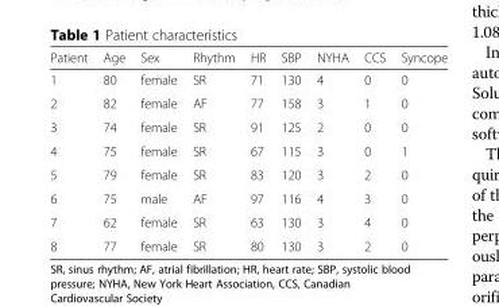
<table><thead><tr><td>Patient</td><td>Age</td><td>Sex</td><td>Rhythm</td><td>HR</td><td>SBP</td><td>NYHA</td><td>CCS</td><td>Syncope</td></tr></thead><tbody><tr><td>1</td><td>80</td><td>female</td><td>SR</td><td>71</td><td>130</td><td>4</td><td>0</td><td>0</td></tr><tr><td>2</td><td>82</td><td>female</td><td>AF</td><td>77</td><td>158</td><td>3</td><td>1</td><td>0</td></tr><tr><td>3</td><td>74</td><td>female</td><td>SR</td><td>91</td><td>125</td><td>2</td><td>0</td><td>0</td></tr><tr><td>4</td><td>75</td><td>female</td><td>SR</td><td>67</td><td>115</td><td>3</td><td>0</td><td>1</td></tr><tr><td>5</td><td>79</td><td>female</td><td>SR</td><td>83</td><td>120</td><td>3</td><td>2</td><td>0</td></tr><tr><td>6</td><td>75</td><td>male</td><td>AF</td><td>97</td><td>116</td><td>4</td><td>3</td><td>0</td></tr><tr><td>7</td><td>62</td><td>female</td><td>SR</td><td>63</td><td>130</td><td>3</td><td>4</td><td>0</td></tr><tr><td>8</td><td>77</td><td>female</td><td>SR</td><td>80</td><td>130</td><td>3</td><td>2</td><td>0</td></tr></tbody></table>